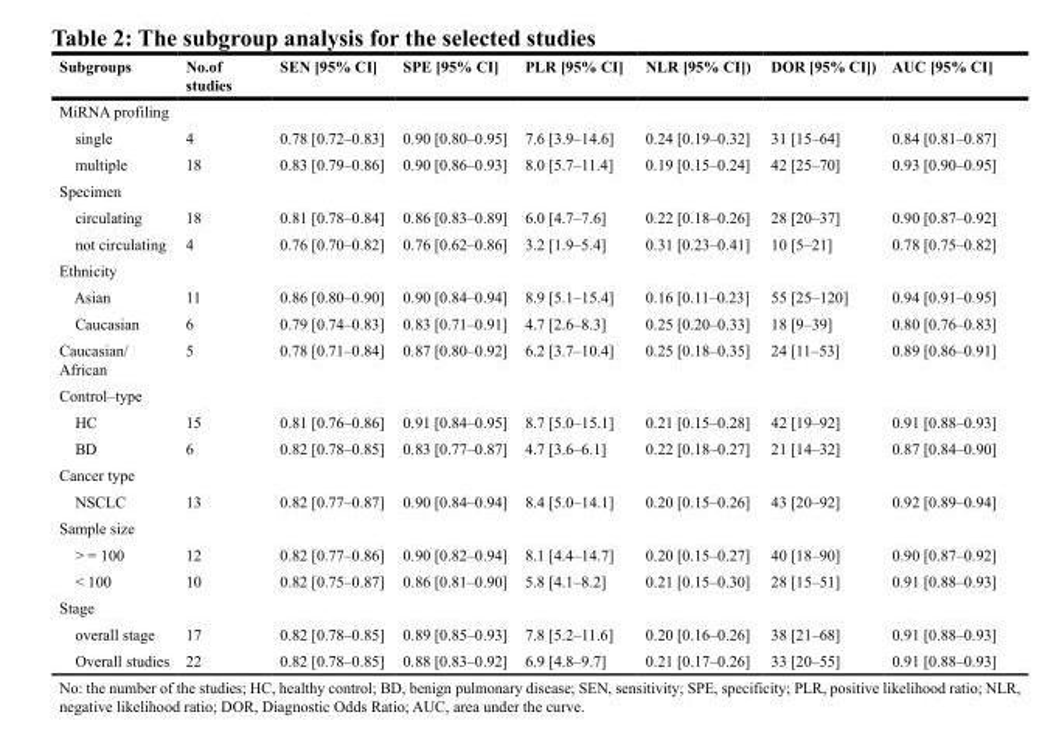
<table><thead><tr><td>Subgroups</td><td>No.of studies</td><td>SEN [95% CI]</td><td>SPE [95% CI]</td><td>PLR [95% CI]</td><td>NLR [95% CI])</td><td>DOR [95% CI])</td><td>AUC [95% CI]</td></tr></thead><tbody><tr><td colspan="8">MiRNA profiling</td></tr><tr><td>single</td><td>4</td><td>0.78 [0.72–0.83]</td><td>0.90 [0.80–0.95]</td><td>7.6 [3.9–14.6]</td><td>0.24 [0.19–0.32]</td><td>31 [15–64]</td><td>0.84 [0.81–0.87]</td></tr><tr><td>multiple</td><td>18</td><td>0.83 [0.79–0.86]</td><td>0.90 [0.86–0.93]</td><td>8.0 [5.7–11.4]</td><td>0.19 [0.15–0.24]</td><td>42 [25–70]</td><td>0.93 [0.90–0.95]</td></tr><tr><td colspan="8">Specimen</td></tr><tr><td>circulating</td><td>18</td><td>0.81 [0.78–0.84]</td><td>0.86 [0.83–0.89]</td><td>6.0 [4.7–7.6]</td><td>0.22 [0.18–0.26]</td><td>28 [20–37]</td><td>0.90 [0.87–0.92]</td></tr><tr><td>not circulating</td><td>4</td><td>0.76 [0.70–0.82]</td><td>0.76 [0.62–0.86]</td><td>3.2 [1.9–5.4]</td><td>0.31 [0.23–0.41]</td><td>10 [5–21]</td><td>0.78 [0.75–0.82]</td></tr><tr><td colspan="8">Ethnicity</td></tr><tr><td>Asian</td><td>11</td><td>0.86 [0.80–0.90]</td><td>0.90 [0.84–0.94]</td><td>8.9 [5.1–15.4]</td><td>0.16 [0.11–0.23]</td><td>55 [25–120]</td><td>0.94 [0.91–0.95]</td></tr><tr><td>Caucasian</td><td>6</td><td>0.79 [0.74–0.83]</td><td>0.83 [0.71–0.91]</td><td>4.7 [2.6–8.3]</td><td>0.25 [0.20–0.33]</td><td>18 [9–39]</td><td>0.80 [0.76–0.83]</td></tr><tr><td>Caucasian/ African</td><td>5</td><td>0.78 [0.71–0.84]</td><td>0.87 [0.80–0.92]</td><td>6.2 [3.7–10.4]</td><td>0.25 [0.18–0.35]</td><td>24 [11–53]</td><td>0.89 [0.86–0.91]</td></tr><tr><td colspan="8">Control–type</td></tr><tr><td>HC</td><td>15</td><td>0.81 [0.76–0.86]</td><td>0.91 [0.84–0.95]</td><td>8.7 [5.0–15.1]</td><td>0.21 [0.15–0.28]</td><td>42 [19–92]</td><td>0.91 [0.88–0.93]</td></tr><tr><td>BD</td><td>6</td><td>0.82 [0.78–0.85]</td><td>0.83 [0.77–0.87]</td><td>4.7 [3.6–6.1]</td><td>0.22 [0.18–0.27]</td><td>21 [14–32]</td><td>0.87 [0.84–0.90]</td></tr><tr><td colspan="8">Cancer type</td></tr><tr><td>NSCLC</td><td>13</td><td>0.82 [0.77–0.87]</td><td>0.90 [0.84–0.94]</td><td>8.4 [5.0–14.1]</td><td>0.20 [0.15–0.26]</td><td>43 [20–92]</td><td>0.92 [0.89–0.94]</td></tr><tr><td colspan="8">Sample size</td></tr><tr><td>&gt; = 100</td><td>12</td><td>0.82 [0.77–0.86]</td><td>0.90 [0.82–0.94]</td><td>8.1 [4.4–14.7]</td><td>0.20 [0.15–0.27]</td><td>40 [18–90]</td><td>0.90 [0.87–0.92]</td></tr><tr><td>&lt; 100</td><td>10</td><td>0.82 [0.75–0.87]</td><td>0.86 [0.81–0.90]</td><td>5.8 [4.1–8.2]</td><td>0.21 [0.15–0.30]</td><td>28 [15–51]</td><td>0.91 [0.88–0.93]</td></tr><tr><td colspan="8">Stage</td></tr><tr><td>overall stage</td><td>17</td><td>0.82 [0.78–0.85]</td><td>0.89 [0.85–0.93]</td><td>7.8 [5.2–11.6]</td><td>0.20 [0.16–0.26]</td><td>38 [21–68]</td><td>0.91 [0.88–0.93]</td></tr><tr><td>Overall studies</td><td>22</td><td>0.82 [0.78–0.85]</td><td>0.88 [0.83–0.92]</td><td>6.9 [4.8–9.7]</td><td>0.21 [0.17–0.26]</td><td>33 [20–55]</td><td>0.91 [0.88–0.93]</td></tr></tbody></table>